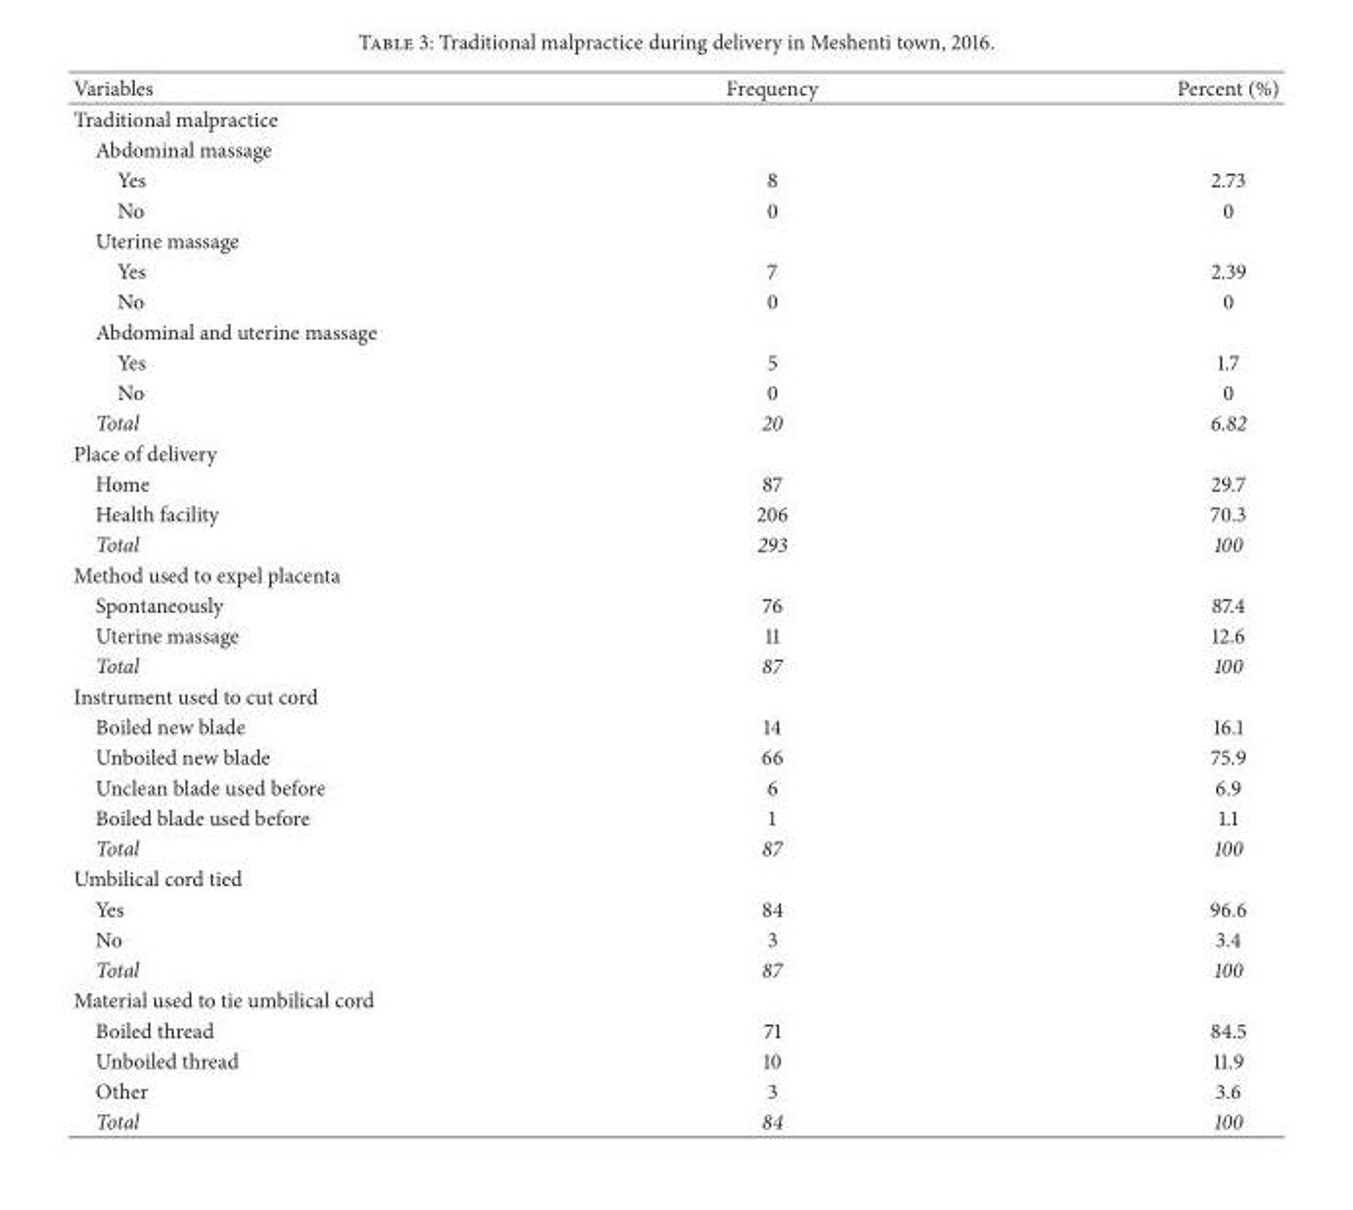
<table><thead><tr><td>Variables</td><td>Frequency</td><td>Percent (%)</td></tr></thead><tbody><tr><td colspan="3">Traditional malpractice</td></tr><tr><td colspan="3">Abdominal massage</td></tr><tr><td>Yes</td><td>8</td><td>2.73</td></tr><tr><td>No</td><td>0</td><td>0</td></tr><tr><td colspan="3">Uterine massage</td></tr><tr><td>Yes</td><td>7</td><td>2.39</td></tr><tr><td>No</td><td>0</td><td>0</td></tr><tr><td colspan="3">Abdominal and uterine massage</td></tr><tr><td>Yes</td><td>5</td><td>1.7</td></tr><tr><td>No</td><td>0</td><td>0</td></tr><tr><td>Total</td><td>20</td><td>6.82</td></tr><tr><td colspan="3">Place of delivery</td></tr><tr><td>Home</td><td>87</td><td>29.7</td></tr><tr><td>Health facility</td><td>206</td><td>70.3</td></tr><tr><td>Total</td><td>293</td><td>100</td></tr><tr><td colspan="3">Method used to expel placenta</td></tr><tr><td>Spontaneously</td><td>76</td><td>87.4</td></tr><tr><td>Uterine massage</td><td>11</td><td>12.6</td></tr><tr><td>Total</td><td>87</td><td>100</td></tr><tr><td colspan="3">Instrument used to cut cord</td></tr><tr><td>Boiled new blade</td><td>14</td><td>16.1</td></tr><tr><td>Unboiled new blade</td><td>66</td><td>75.9</td></tr><tr><td>Unclean blade used before</td><td>6</td><td>6.9</td></tr><tr><td>Boiled blade used before</td><td>1</td><td>1.1</td></tr><tr><td>Total</td><td>87</td><td>100</td></tr><tr><td colspan="3">Umbilical cord tied</td></tr><tr><td>Yes</td><td>84</td><td>96.6</td></tr><tr><td>No</td><td>3</td><td>3.4</td></tr><tr><td>Total</td><td>87</td><td>100</td></tr><tr><td colspan="3">Material used to tie umbilical cord</td></tr><tr><td>Boiled thread</td><td>71</td><td>84.5</td></tr><tr><td>Unboiled thread</td><td>10</td><td>11.9</td></tr><tr><td>Other</td><td>3</td><td>3.6</td></tr><tr><td>Total</td><td>84</td><td>100</td></tr></tbody></table>